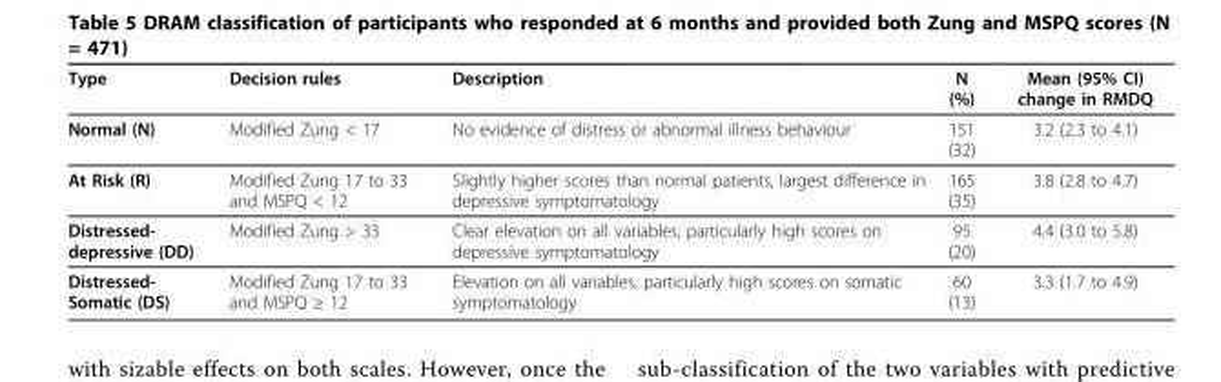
<table><thead><tr><td>Type</td><td>Decision rules</td><td>Description</td><td>N (%)</td><td>Mean (95% CI) change in RMDQ</td></tr></thead><tbody><tr><td>Normal (N)</td><td>Modified Zung &lt; 17</td><td>No evidence of distress or abnormal illness behaviour</td><td>151 (32)</td><td>3.2 (2.3 to 4.1)</td></tr><tr><td>At Risk (R)</td><td>Modified Zung 17 to 33 and MSPQ &lt; 12</td><td>Slightly higher scores than normal patients, largest difference in depressive symptomatology</td><td>165 (35)</td><td>3.8 (2.8 to 4.7)</td></tr><tr><td>Distressed- depressive (DD)</td><td>Modified Zung &gt; 33</td><td>Clear elevation on all variables, particularly high scores on depressive symptomatology</td><td>95 (20)</td><td>4.4 (3.0 to 5.8)</td></tr><tr><td>Distressed- Somatic (DS)</td><td>Modified Zung 17 to 33 and MSPQ ≥ 12</td><td>Elevation on all variables, particularly high scores on somatic symptomatology</td><td>60 (13)</td><td>3.3 (1.7 to 4.9)</td></tr></tbody></table>